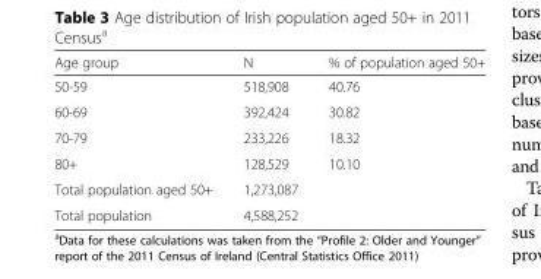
<table><thead><tr><td>Age group</td><td>N</td><td>% of population aged 50+</td></tr></thead><tbody><tr><td>50-59</td><td>518,908</td><td>40.76</td></tr><tr><td>60-69</td><td>392,424</td><td>30.82</td></tr><tr><td>70-79</td><td>233,226</td><td>18.32</td></tr><tr><td>80+</td><td>128,529</td><td>10.10</td></tr><tr><td>Total population aged 50+</td><td>1,273,087</td><td></td></tr><tr><td>Total population</td><td>4,588,252</td><td></td></tr></tbody></table>